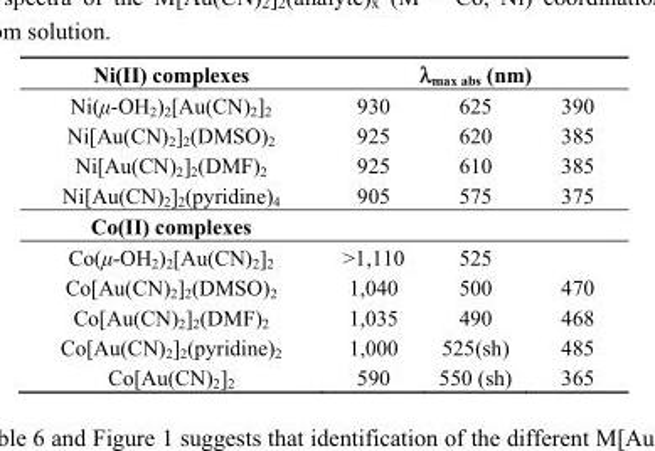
<table><thead><tr><td rowspan="2">Ni(II) complexes Ni(μ-OH<sub>2</sub>)<sub>2</sub>[Au(CN)<sub>2</sub>]<sub>2</sub></td><td colspan="3">λ<sub>max abs</sub> (nm)</td></tr><tr><td>930</td><td>625</td><td>390</td></tr></thead><tbody><tr><td>Ni[Au(CN)<sub>2</sub>]<sub>2</sub>(DMSO)<sub>2</sub></td><td>925</td><td>620</td><td>385</td></tr><tr><td>Ni[Au(CN)<sub>2</sub>]<sub>2</sub>(DMF)<sub>2</sub></td><td>925</td><td>610</td><td>385</td></tr><tr><td>Ni[Au(CN)<sub>2</sub>]<sub>2</sub>(pyridine)<sub>4</sub></td><td>905</td><td>575</td><td>375</td></tr><tr><td colspan="4">Co(II) complexes</td></tr><tr><td>Co(μ-OH<sub>2</sub>)<sub>2</sub>[Au(CN)<sub>2</sub>]<sub>2</sub></td><td>&gt;1,110</td><td>525</td><td></td></tr><tr><td>Co[Au(CN)<sub>2</sub>]<sub>2</sub>(DMSO)<sub>2</sub></td><td>1,040</td><td>500</td><td>470</td></tr><tr><td>Co[Au(CN)<sub>2</sub>]<sub>2</sub>(DMF)<sub>2</sub></td><td>1,035</td><td>490</td><td>468</td></tr><tr><td>Co[Au(CN)<sub>2</sub>]<sub>2</sub>(pyridine)<sub>2</sub></td><td>1,000</td><td>525(sh)</td><td>485</td></tr><tr><td>Co[Au(CN)<sub>2</sub>]<sub>2</sub></td><td>590</td><td>550 (sh)</td><td>365</td></tr></tbody></table>